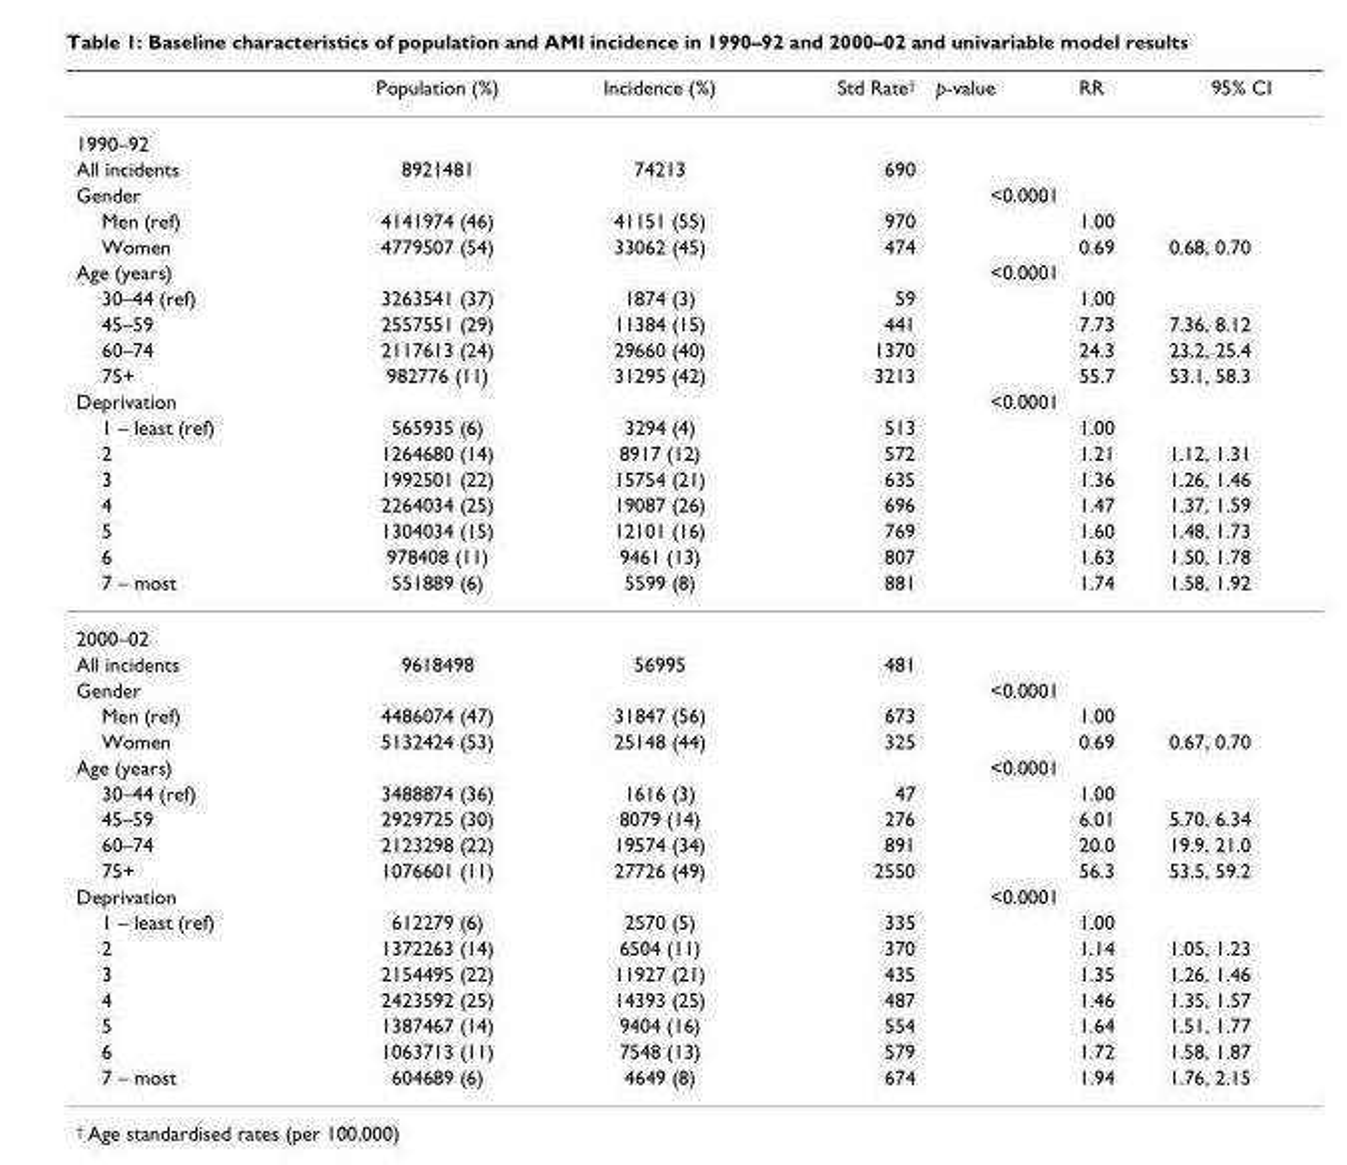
<table><thead><tr><td></td><td>Population (%)</td><td>Incidence (%)</td><td>Std Rate<sup>†</sup></td><td>p-value</td><td>RR</td><td>95% CI</td></tr></thead><tbody><tr><td colspan="7">1990–92</td></tr><tr><td>All incidents</td><td>8921481</td><td>74213</td><td>690</td><td></td><td></td><td></td></tr><tr><td>Gender</td><td></td><td></td><td></td><td>&lt;0.0001</td><td></td><td></td></tr><tr><td>Men (ref)</td><td>4141974 (46)</td><td>41151 (55)</td><td>970</td><td></td><td>1.00</td><td></td></tr><tr><td>Women</td><td>4779507 (54)</td><td>33062 (45)</td><td>474</td><td></td><td>0.69</td><td>0.68, 0.70</td></tr><tr><td>Age (years)</td><td></td><td></td><td></td><td>&lt;0.0001</td><td></td><td></td></tr><tr><td>30–44 (ref)</td><td>3263541 (37)</td><td>1874 (3)</td><td>59</td><td></td><td>1.00</td><td></td></tr><tr><td>45–59</td><td>2557551 (29)</td><td>11384 (15)</td><td>441</td><td></td><td>7.73</td><td>7.36, 8.12</td></tr><tr><td>60–74</td><td>2117613 (24)</td><td>29660 (40)</td><td>1370</td><td></td><td>24.3</td><td>23.2, 25.4</td></tr><tr><td>75+</td><td>982776 (11)</td><td>31295 (42)</td><td>3213</td><td></td><td>55.7</td><td>53.1, 58.3</td></tr><tr><td>Deprivation</td><td></td><td></td><td></td><td>&lt;0.0001</td><td></td><td></td></tr><tr><td>1 – least (ref)</td><td>565935 (6)</td><td>3294 (4)</td><td>513</td><td></td><td>1.00</td><td></td></tr><tr><td>2</td><td>1264680 (14)</td><td>8917 (12)</td><td>572</td><td></td><td>1.21</td><td>1.12, 1.31</td></tr><tr><td>3</td><td>1992501 (22)</td><td>15754 (21)</td><td>635</td><td></td><td>1.36</td><td>1.26, 1.46</td></tr><tr><td>4</td><td>2264034 (25)</td><td>19087 (26)</td><td>696</td><td></td><td>1.47</td><td>1.37, 1.59</td></tr><tr><td>5</td><td>1304034 (15)</td><td>12101 (16)</td><td>769</td><td></td><td>1.60</td><td>1.48, 1.73</td></tr><tr><td>6</td><td>978408 (11)</td><td>9461 (13)</td><td>807</td><td></td><td>1.63</td><td>1.50, 1.78</td></tr><tr><td>7 – most</td><td>551889 (6)</td><td>5599 (8)</td><td>881</td><td></td><td>1.74</td><td>1.58, 1.92</td></tr><tr><td colspan="7">2000–02</td></tr><tr><td>All incidents</td><td>9618498</td><td>56995</td><td>481</td><td></td><td></td><td></td></tr><tr><td>Gender</td><td></td><td></td><td></td><td>&lt;0.0001</td><td></td><td></td></tr><tr><td>Men (ref)</td><td>4486074 (47)</td><td>31847 (56)</td><td>673</td><td></td><td>1.00</td><td></td></tr><tr><td>Women</td><td>5132424 (53)</td><td>25148 (44)</td><td>325</td><td></td><td>0.69</td><td>0.67, 0.70</td></tr><tr><td>Age (years)</td><td></td><td></td><td></td><td>&lt;0.0001</td><td></td><td></td></tr><tr><td>30–44 (ref)</td><td>3488874 (36)</td><td>1616 (3)</td><td>47</td><td></td><td>1.00</td><td></td></tr><tr><td>45–59</td><td>2929725 (30)</td><td>8079 (14)</td><td>276</td><td></td><td>6.01</td><td>5.70, 6.34</td></tr><tr><td>60–74</td><td>2123298 (22)</td><td>19574 (34)</td><td>891</td><td></td><td>20.0</td><td>19.9, 21.0</td></tr><tr><td>75+</td><td>1076601 (11)</td><td>27726 (49)</td><td>2550</td><td></td><td>56.3</td><td>53.5, 59.2</td></tr><tr><td>Deprivation</td><td></td><td></td><td></td><td>&lt;0.0001</td><td></td><td></td></tr><tr><td>1 – least (ref)</td><td>612279 (6)</td><td>2570 (5)</td><td>335</td><td></td><td>1.00</td><td></td></tr><tr><td>2</td><td>1372263 (14)</td><td>6504 (11)</td><td>370</td><td></td><td>1.14</td><td>1.05, 1.23</td></tr><tr><td>3</td><td>2154495 (22)</td><td>11927 (21)</td><td>435</td><td></td><td>1.35</td><td>1.26, 1.46</td></tr><tr><td>4</td><td>2423592 (25)</td><td>14393 (25)</td><td>487</td><td></td><td>1.46</td><td>1.35, 1.57</td></tr><tr><td>5</td><td>1387467 (14)</td><td>9404 (16)</td><td>554</td><td></td><td>1.64</td><td>1.51, 1.77</td></tr><tr><td>6</td><td>1063713 (11)</td><td>7548 (13)</td><td>579</td><td></td><td>1.72</td><td>1.58, 1.87</td></tr><tr><td>7 – most</td><td>604689 (6)</td><td>4649 (8)</td><td>674</td><td></td><td>1.94</td><td>1.76, 2.15</td></tr></tbody></table>